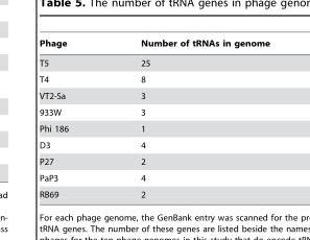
<table><thead><tr><td>Phage</td><td>Number of tRNAs in genome</td></tr></thead><tbody><tr><td>T5</td><td>25</td></tr><tr><td>T4</td><td>8</td></tr><tr><td>VT2-Sa</td><td>3</td></tr><tr><td>933W</td><td>3</td></tr><tr><td>Phi 186</td><td>1</td></tr><tr><td>D3</td><td>4</td></tr><tr><td>P27</td><td>2</td></tr><tr><td>PaP3</td><td>4</td></tr><tr><td>RB69</td><td>2</td></tr></tbody></table>